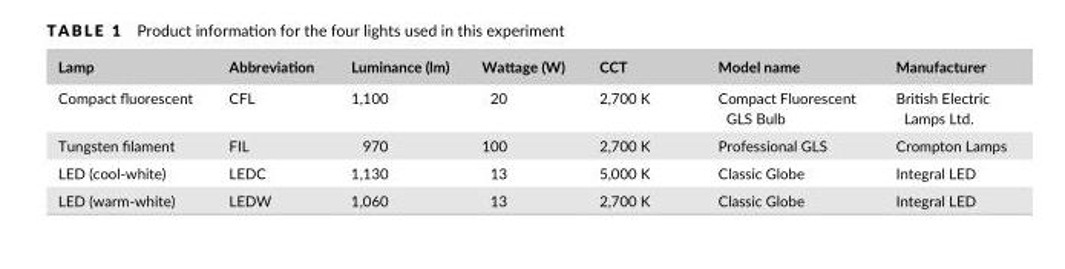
<table><thead><tr><td>Lamp</td><td>Abbreviation</td><td>Luminance (lm)</td><td>Wattage (W)</td><td>CCT</td><td>Model name</td><td>Manufacturer</td></tr></thead><tbody><tr><td>Compact fluorescent</td><td>CFL</td><td>1,100</td><td>20</td><td>2,700 K</td><td>Compact Fluorescent GLS Bulb</td><td>British Electric Lamps Ltd.</td></tr><tr><td>Tungsten filament</td><td>FIL</td><td>970</td><td>100</td><td>2,700 K</td><td>Professional GLS</td><td>Crompton Lamps</td></tr><tr><td>LED (cool- white)</td><td>LEDC</td><td>1,130</td><td>13</td><td>5,000 K</td><td>Classic Globe</td><td>Integral LED</td></tr><tr><td>LED (warm- white)</td><td>LEDW</td><td>1,060</td><td>13</td><td>2,700 K</td><td>Classic Globe</td><td>Integral LED</td></tr></tbody></table>